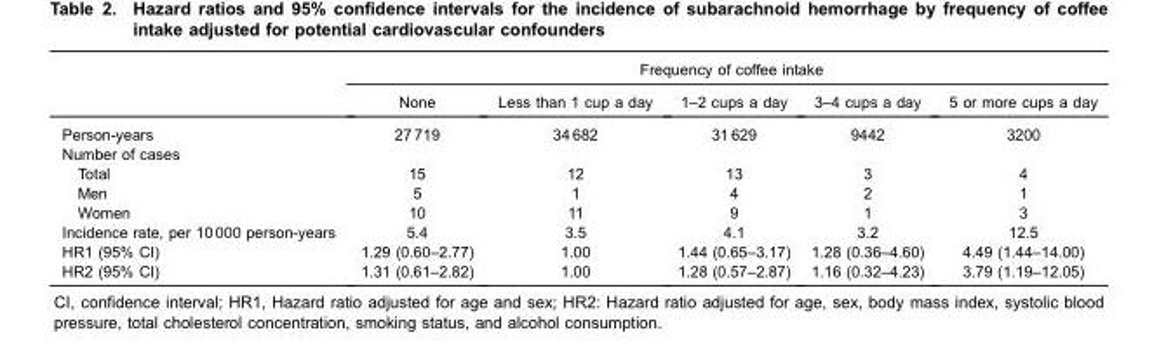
<table><thead><tr><td rowspan="2"></td><td colspan="5">Frequency of coffee intake</td></tr><tr><td>None</td><td>Less than 1 cup a day</td><td>1–2 cups a day</td><td>3–4 cups a day</td><td>5 or more cups a day</td></tr></thead><tbody><tr><td>Person-years</td><td>27 719</td><td>34 682</td><td>31 629</td><td>9442</td><td>3200</td></tr><tr><td colspan="6">Number of cases</td></tr><tr><td>Total</td><td>15</td><td>12</td><td>13</td><td>3</td><td>4</td></tr><tr><td>Men</td><td>5</td><td>1</td><td>4</td><td>2</td><td>1</td></tr><tr><td>Women</td><td>10</td><td>11</td><td>9</td><td>1</td><td>3</td></tr><tr><td>Incidence rate, per 10 000 person-years</td><td>5.4</td><td>3.5</td><td>4.1</td><td>3.2</td><td>12.5</td></tr><tr><td>HR1 (95% CI)</td><td>1.29 (0.60–2.77)</td><td>1.00</td><td>1.44 (0.65–3.17)</td><td>1.28 (0.36–4.60)</td><td>4.49 (1.44–14.00)</td></tr><tr><td>HR2 (95% CI)</td><td>1.31 (0.61–2.82)</td><td>1.00</td><td>1.28 (0.57–2.87)</td><td>1.16 (0.32–4.23)</td><td>3.79 (1.19–12.05)</td></tr></tbody></table>